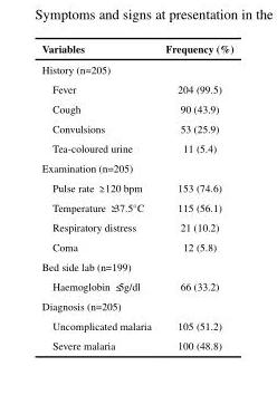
<table><thead><tr><td>Variables</td><td>Frequency (%)</td></tr></thead><tbody><tr><td colspan="2">History (n=205)</td></tr><tr><td>Fever</td><td>204 (99.5)</td></tr><tr><td>Cough</td><td>90 (43.9)</td></tr><tr><td>Convulsions</td><td>53 (25.9)</td></tr><tr><td>Tea-coloured urine</td><td>11 (5.4)</td></tr><tr><td colspan="2">Examination (n=205)</td></tr><tr><td>Pulse rate ≥ 120 bpm</td><td>153 (74.6)</td></tr><tr><td>Temperature ≥37.5°C</td><td>115 (56.1)</td></tr><tr><td>Respiratory distress</td><td>21 (10.2)</td></tr><tr><td>Coma</td><td>12 (5.8)</td></tr><tr><td colspan="2">Bed side lab (n=199)</td></tr><tr><td>Haemoglobin ≤5g/dl</td><td>66 (33.2)</td></tr><tr><td colspan="2">Diagnosis (n=205)</td></tr><tr><td>Uncomplicated malaria</td><td>105 (51.2)</td></tr><tr><td>Severe malaria</td><td>100 (48.8)</td></tr></tbody></table>